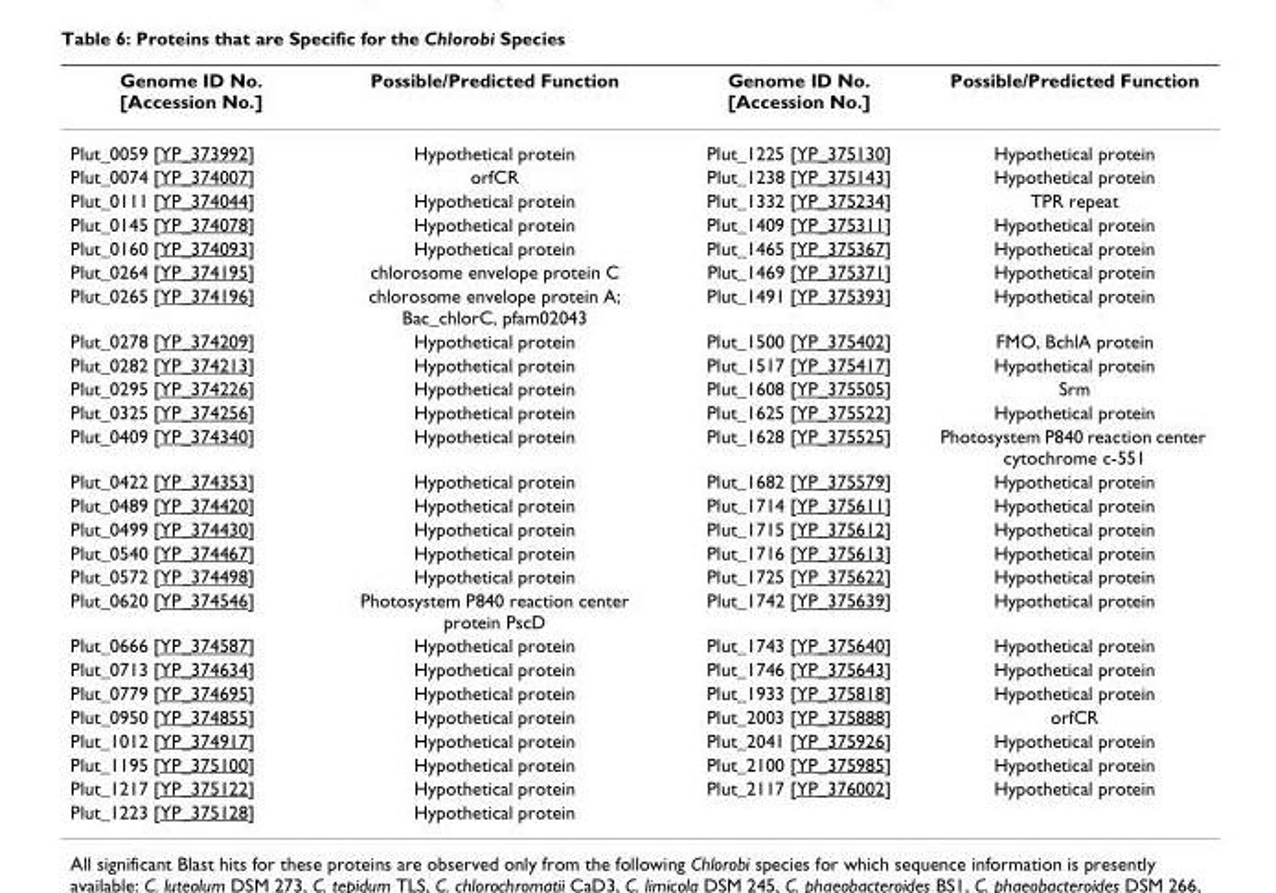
<table><thead><tr><td>Genome ID No. [Accession No.]</td><td>Possible/Predicted Function</td><td>Genome ID No. [Accession No.]</td><td>Possible/Predicted Function</td></tr></thead><tbody><tr><td>Plut_0059 [YP_373992]</td><td>Hypothetical protein</td><td>Plut_1225 [YP_375130]</td><td>Hypothetical protein</td></tr><tr><td>Plut_0074 [YP_374007]</td><td>orfCR</td><td>Plut_1238 [YP_375143]</td><td>Hypothetical protein</td></tr><tr><td>Plut_0111 [YP_374044]</td><td>Hypothetical protein</td><td>Plut_1332 [YP_375234]</td><td>TPR repeat</td></tr><tr><td>Plut_0145 [YP_374078]</td><td>Hypothetical protein</td><td>Plut_1409 [YP_375311]</td><td>Hypothetical protein</td></tr><tr><td>Plut_0160 [YP_374093]</td><td>Hypothetical protein</td><td>Plut_1465 [YP_375367]</td><td>Hypothetical protein</td></tr><tr><td>Plut_0264 [YP_374195]</td><td>chlorosome envelope protein C</td><td>Plut_1469 [YP_375371]</td><td>Hypothetical protein</td></tr><tr><td>Plut_0265 [YP_374196]</td><td>chlorosome envelope protein A; Bac_chlorC, pfam02043</td><td>Plut_1491 [YP_375393]</td><td>Hypothetical protein</td></tr><tr><td>Plut_0278 [YP_374209]</td><td>Hypothetical protein</td><td>Plut_1500 [YP_375402]</td><td>FMO, BchlA protein</td></tr><tr><td>Plut_0282 [YP_374213]</td><td>Hypothetical protein</td><td>Plut_1517 [YP_375417]</td><td>Hypothetical protein</td></tr><tr><td>Plut_0295 [YP_374226]</td><td>Hypothetical protein</td><td>Plut_1608 [YP_375505]</td><td>Srm</td></tr><tr><td>Plut_0325 [YP_374256]</td><td>Hypothetical protein</td><td>Plut_1625 [YP_375522]</td><td>Hypothetical protein</td></tr><tr><td>Plut_0409 [YP_374340]</td><td>Hypothetical protein</td><td>Plut_1628 [YP_375525]</td><td>Photosystem P840 reaction center cytochrome c-551</td></tr><tr><td>Plut_0422 [YP_374353]</td><td>Hypothetical protein</td><td>Plut_1682 [YP_375579]</td><td>Hypothetical protein</td></tr><tr><td>Plut_0489 [YP_374420]</td><td>Hypothetical protein</td><td>Plut_1714 [YP_375611]</td><td>Hypothetical protein</td></tr><tr><td>Plut_0499 [YP_374430]</td><td>Hypothetical protein</td><td>Plut_1715 [YP_375612]</td><td>Hypothetical protein</td></tr><tr><td>Plut_0540 [YP_374467]</td><td>Hypothetical protein</td><td>Plut_1716 [YP_375613]</td><td>Hypothetical protein</td></tr><tr><td>Plut_0572 [YP_374498]</td><td>Hypothetical protein</td><td>Plut_1725 [YP_375622]</td><td>Hypothetical protein</td></tr><tr><td>Plut_0620 [YP_374546]</td><td>Photosystem P840 reaction center protein PscD</td><td>Plut_1742 [YP_375639]</td><td>Hypothetical protein</td></tr><tr><td>Plut_0666 [YP_374587]</td><td>Hypothetical protein</td><td>Plut_1743 [YP_375640]</td><td>Hypothetical protein</td></tr><tr><td>Plut_0713 [YP_374634]</td><td>Hypothetical protein</td><td>Plut_1746 [YP_375643]</td><td>Hypothetical protein</td></tr><tr><td>Plut_0779 [YP_374695]</td><td>Hypothetical protein</td><td>Plut_1933 [YP_375818]</td><td>Hypothetical protein</td></tr><tr><td>Plut_0950 [YP_374855]</td><td>Hypothetical protein</td><td>Plut_2003 [YP_375888]</td><td>orfCR</td></tr><tr><td>Plut_1012 [YP_374917]</td><td>Hypothetical protein</td><td>Plut_2041 [YP_375926]</td><td>Hypothetical protein</td></tr><tr><td>Plut_1195 [YP_375100]</td><td>Hypothetical protein</td><td>Plut_2100 [YP_375985]</td><td>Hypothetical protein</td></tr><tr><td>Plut_1217 [YP_375122]</td><td>Hypothetical protein</td><td>Plut_2117 [YP_376002]</td><td>Hypothetical protein</td></tr><tr><td>Plut_1223 [YP_375128]</td><td>Hypothetical protein</td><td></td><td></td></tr></tbody></table>